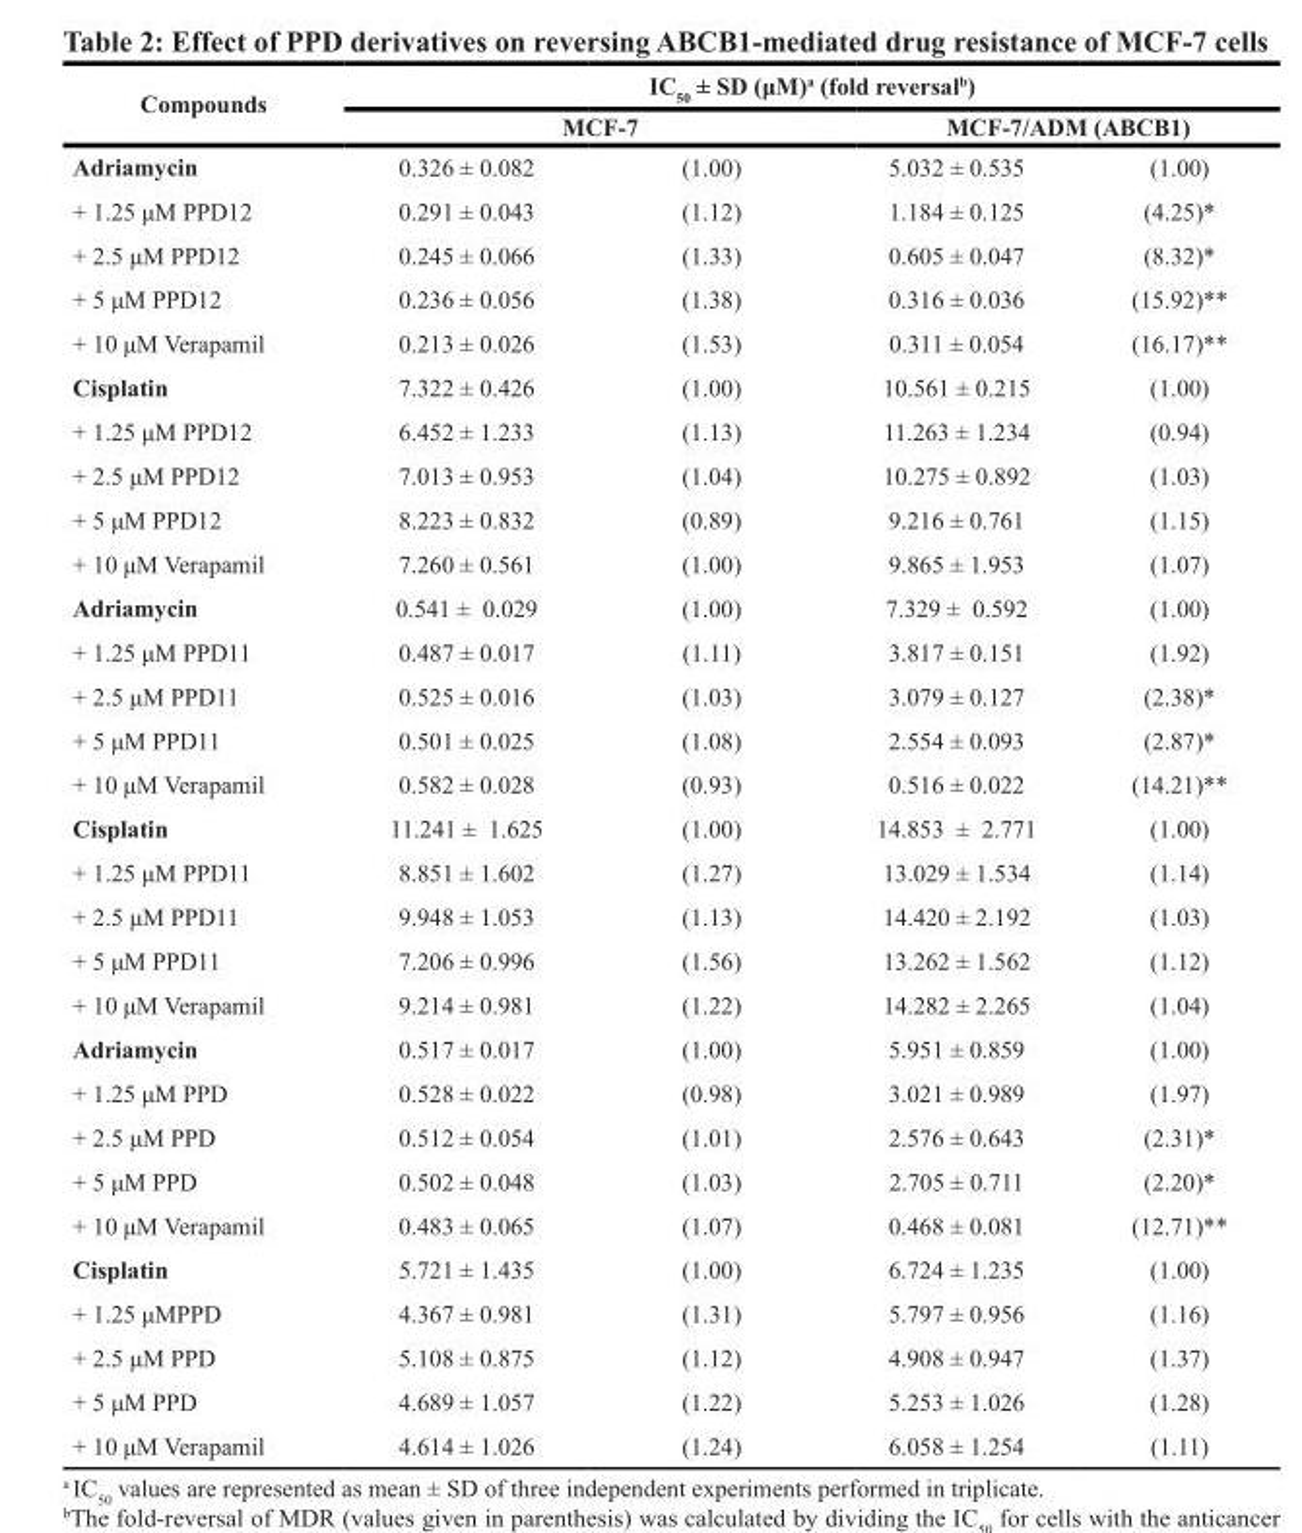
<table><thead><tr><td rowspan="3">Compounds Adriamycin</td><td colspan="4">IC<sub>50</sub> ± SD (μM)<sup>a</sup> (fold reversal<sup>b</sup>)</td></tr><tr><td colspan="2">MCF-7</td><td colspan="2">MCF-7/ADM (ABCB1)</td></tr><tr><td>0.326 ± 0.082</td><td>(1.00)</td><td>5.032 ± 0.535</td><td>(1.00)</td></tr></thead><tbody><tr><td>+ 1.25 μM PPD12</td><td>0.291 ± 0.043</td><td>(1.12)</td><td>1.184 ± 0.125</td><td>(4.25)*</td></tr><tr><td>+ 2.5 μM PPD12</td><td>0.245 ± 0.066</td><td>(1.33)</td><td>0.605 ± 0.047</td><td>(8.32)*</td></tr><tr><td>+ 5 μM PPD12</td><td>0.236 ± 0.056</td><td>(1.38)</td><td>0.316 ± 0.036</td><td>(15.92)**</td></tr><tr><td>+ 10 μM Verapamil</td><td>0.213 ± 0.026</td><td>(1.53)</td><td>0.311 ± 0.054</td><td>(16.17)**</td></tr><tr><td>Cisplatin</td><td>7.322 ± 0.426</td><td>(1.00)</td><td>10.561 ± 0.215</td><td>(1.00)</td></tr><tr><td>+ 1.25 μM PPD12</td><td>6.452 ± 1.233</td><td>(1.13)</td><td>11.263 ± 1.234</td><td>(0.94)</td></tr><tr><td>+ 2.5 μM PPD12</td><td>7.013 ± 0.953</td><td>(1.04)</td><td>10.275 ± 0.892</td><td>(1.03)</td></tr><tr><td>+ 5 μM PPD12</td><td>8.223 ± 0.832</td><td>(0.89)</td><td>9.216 ± 0.761</td><td>(1.15)</td></tr><tr><td>+ 10 μM Verapamil</td><td>7.260 ± 0.561</td><td>(1.00)</td><td>9.865 ± 1.953</td><td>(1.07)</td></tr><tr><td>Adriamycin</td><td>0.541 ± 0.029</td><td>(1.00)</td><td>7.329 ± 0.592</td><td>(1.00)</td></tr><tr><td>+ 1.25 μM PPD11</td><td>0.487 ± 0.017</td><td>(1.11)</td><td>3.817 ± 0.151</td><td>(1.92)</td></tr><tr><td>+ 2.5 μM PPD11</td><td>0.525 ± 0.016</td><td>(1.03)</td><td>3.079 ± 0.127</td><td>(2.38)*</td></tr><tr><td>+ 5 μM PPD11</td><td>0.501 ± 0.025</td><td>(1.08)</td><td>2.554 ± 0.093</td><td>(2.87)*</td></tr><tr><td>+ 10 μM Verapamil</td><td>0.582 ± 0.028</td><td>(0.93)</td><td>0.516 ± 0.022</td><td>(14.21)**</td></tr><tr><td>Cisplatin</td><td>11.241 ± 1.625</td><td>(1.00)</td><td>14.853 ± 2.771</td><td>(1.00)</td></tr><tr><td>+ 1.25 μM PPD11</td><td>8.851 ± 1.602</td><td>(1.27)</td><td>13.029 ± 1.534</td><td>(1.14)</td></tr><tr><td>+ 2.5 μM PPD11</td><td>9.948 ± 1.053</td><td>(1.13)</td><td>14.420 ± 2.192</td><td>(1.03)</td></tr><tr><td>+ 5 μM PPD11</td><td>7.206 ± 0.996</td><td>(1.56)</td><td>13.262 ± 1.562</td><td>(1.12)</td></tr><tr><td>+ 10 μM Verapamil</td><td>9.214 ± 0.981</td><td>(1.22)</td><td>14.282 ± 2.265</td><td>(1.04)</td></tr><tr><td>Adriamycin</td><td>0.517 ± 0.017</td><td>(1.00)</td><td>5.951 ± 0.859</td><td>(1.00)</td></tr><tr><td>+ 1.25 μM PPD</td><td>0.528 ± 0.022</td><td>(0.98)</td><td>3.021 ± 0.989</td><td>(1.97)</td></tr><tr><td>+ 2.5 μM PPD</td><td>0.512 ± 0.054</td><td>(1.01)</td><td>2.576 ± 0.643</td><td>(2.31)*</td></tr><tr><td>+ 5 μM PPD</td><td>0.502 ± 0.048</td><td>(1.03)</td><td>2.705 ± 0.711</td><td>(2.20)*</td></tr><tr><td>+ 10 μM Verapamil</td><td>0.483 ± 0.065</td><td>(1.07)</td><td>0.468 ± 0.081</td><td>(12.71)**</td></tr><tr><td>Cisplatin</td><td>5.721 ± 1.435</td><td>(1.00)</td><td>6.724 ± 1.235</td><td>(1.00)</td></tr><tr><td>+ 1.25 μMPPD</td><td>4.367 ± 0.981</td><td>(1.31)</td><td>5.797 ± 0.956</td><td>(1.16)</td></tr><tr><td>+ 2.5 μM PPD</td><td>5.108 ± 0.875</td><td>(1.12)</td><td>4.908 ± 0.947</td><td>(1.37)</td></tr><tr><td>+ 5 μM PPD</td><td>4.689 ± 1.057</td><td>(1.22)</td><td>5.253 ± 1.026</td><td>(1.28)</td></tr><tr><td>+ 10 μM Verapamil</td><td>4.614 ± 1.026</td><td>(1.24)</td><td>6.058 ± 1.254</td><td>(1.11)</td></tr></tbody></table>